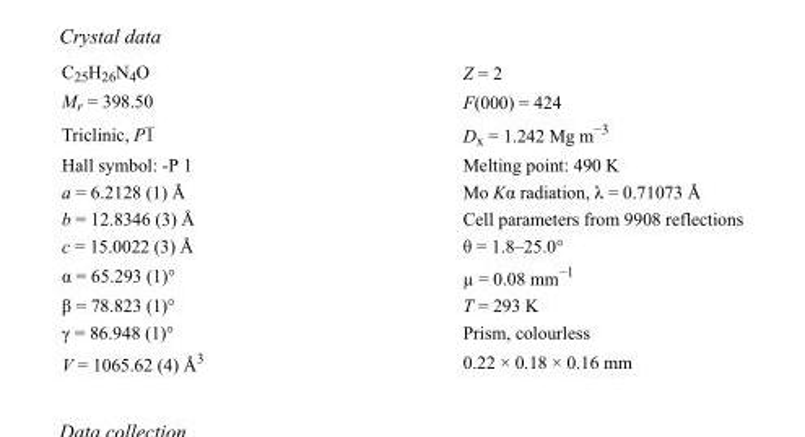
<table><tbody><tr><td>C<sub>25</sub>H<sub>26</sub>N<sub>4</sub>O</td><td>Z = 2</td></tr><tr><td>M<sub>r</sub> = 398.50</td><td>F(000) = 424</td></tr><tr><td>Triclinic, P1</td><td>D<sub>x</sub> = 1.242 Mg m<sup>−3</sup></td></tr><tr><td>Hall symbol: -P 1</td><td>Melting point: 490 K</td></tr><tr><td>a = 6.2128 (1) Å</td><td>Mo Kα radiation, λ = 0.71073 Å</td></tr><tr><td>b = 12.8346 (3) Å</td><td>Cell parameters from 9908 reflections</td></tr><tr><td>c = 15.0022 (3) Å</td><td>θ = 1.8–25.0°</td></tr><tr><td>α = 65.293 (1)°</td><td>µ = 0.08 mm<sup>−1</sup></td></tr><tr><td>β = 78.823 (1)°</td><td>T = 293 K</td></tr><tr><td>γ = 86.948 (1)°</td><td>Prism, colourless</td></tr><tr><td>V = 1065.62 (4) Å<sup>3</sup></td><td>0.22 × 0.18 × 0.16 mm</td></tr></tbody></table>